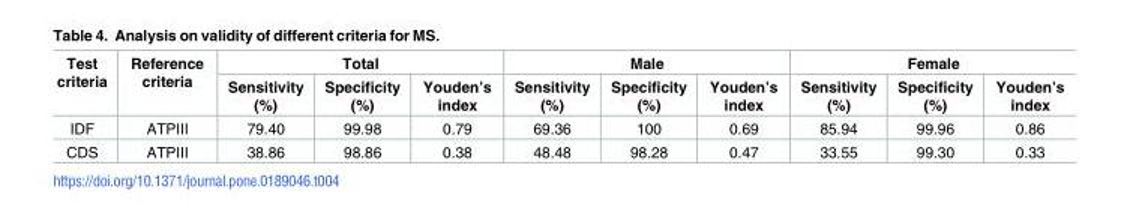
<table><thead><tr><td rowspan="2">Test criteria</td><td rowspan="2">Reference criteria</td><td colspan="3">Total</td><td colspan="3">Male</td><td colspan="3">Female</td></tr><tr><td>Sensitivity (%)</td><td>Specificity (%)</td><td>Youden’s index</td><td>Sensitivity (%)</td><td>Specificity (%)</td><td>Youden’s index</td><td>Sensitivity (%)</td><td>Specificity (%)</td><td>Youden’s index</td></tr></thead><tbody><tr><td>IDF</td><td>ATPⅢ</td><td>79.40</td><td>99.98</td><td>0.79</td><td>69.36</td><td>100</td><td>0.69</td><td>85.94</td><td>99.96</td><td>0.86</td></tr><tr><td>CDS</td><td>ATPⅢ</td><td>38.86</td><td>98.86</td><td>0.38</td><td>48.48</td><td>98.28</td><td>0.47</td><td>33.55</td><td>99.30</td><td>0.33</td></tr></tbody></table>